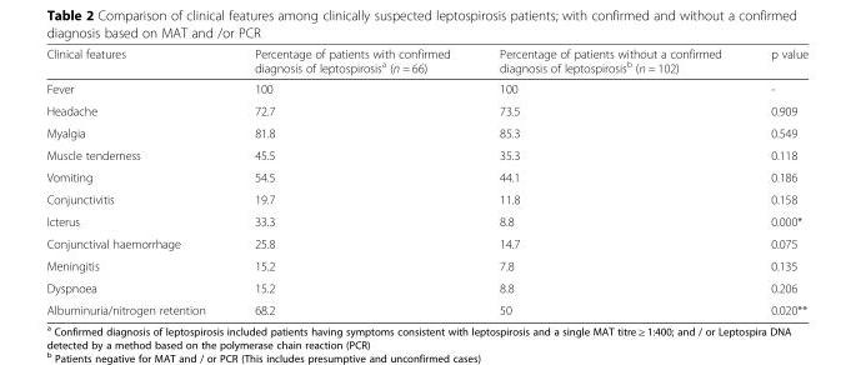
<table><thead><tr><td>Clinical features</td><td>Percentage of patients with confirmed diagnosis of leptospirosis<sup>a</sup> (n = 66)</td><td>Percentage of patients without a confirmed diagnosis of leptospirosis<sup>b</sup> (n = 102)</td><td>p value</td></tr></thead><tbody><tr><td>Fever</td><td>100</td><td>100</td><td>-</td></tr><tr><td>Headache</td><td>72.7</td><td>73.5</td><td>0.909</td></tr><tr><td>Myalgia</td><td>81.8</td><td>85.3</td><td>0.549</td></tr><tr><td>Muscle tenderness</td><td>45.5</td><td>35.3</td><td>0.118</td></tr><tr><td>Vomiting</td><td>54.5</td><td>44.1</td><td>0.186</td></tr><tr><td>Conjunctivitis</td><td>19.7</td><td>11.8</td><td>0.158</td></tr><tr><td>Icterus</td><td>33.3</td><td>8.8</td><td>0.000*</td></tr><tr><td>Conjunctival haemorrhage</td><td>25.8</td><td>14.7</td><td>0.075</td></tr><tr><td>Meningitis</td><td>15.2</td><td>7.8</td><td>0.135</td></tr><tr><td>Dyspnoea</td><td>15.2</td><td>8.8</td><td>0.206</td></tr><tr><td>Albuminuria/nitrogen retention</td><td>68.2</td><td>50</td><td>0.020**</td></tr></tbody></table>